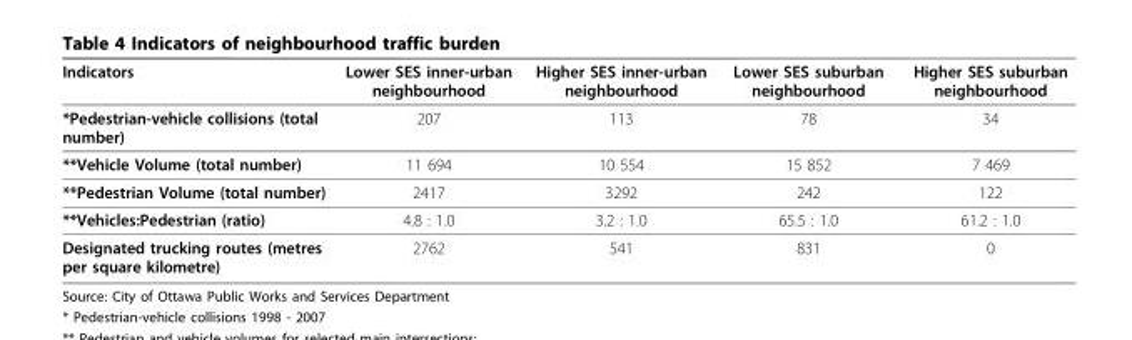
<table><thead><tr><td>Indicators</td><td>Lower SES inner-urban neighbourhood</td><td>Higher SES inner-urban neighbourhood</td><td>Lower SES suburban neighbourhood</td><td>Higher SES suburban neighbourhood</td></tr></thead><tbody><tr><td>*Pedestrian-vehicle collisions (total number)</td><td>207</td><td>113</td><td>78</td><td>34</td></tr><tr><td>**Vehicle Volume (total number)</td><td>11 694</td><td>10 554</td><td>15 852</td><td>7 469</td></tr><tr><td>**Pedestrian Volume (total number)</td><td>2417</td><td>3292</td><td>242</td><td>122</td></tr><tr><td>**Vehicles:Pedestrian (ratio)</td><td>4.8 : 1.0</td><td>3.2 : 1.0</td><td>65.5 : 1.0</td><td>61.2 : 1.0</td></tr><tr><td>Designated trucking routes (metres per square kilometre)</td><td>2762</td><td>541</td><td>831</td><td>0</td></tr></tbody></table>